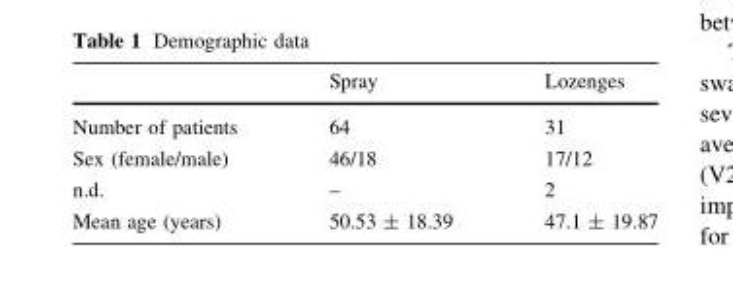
<table><thead><tr><td></td><td>Spray</td><td>Lozenges</td></tr></thead><tbody><tr><td>Number of patients</td><td>64</td><td>31</td></tr><tr><td>Sex (female/male)</td><td>46/18</td><td>17/12</td></tr><tr><td>n.d.</td><td>–</td><td>2</td></tr><tr><td>Mean age (years)</td><td>50.53 ± 18.39</td><td>47.1 ± 19.87</td></tr></tbody></table>